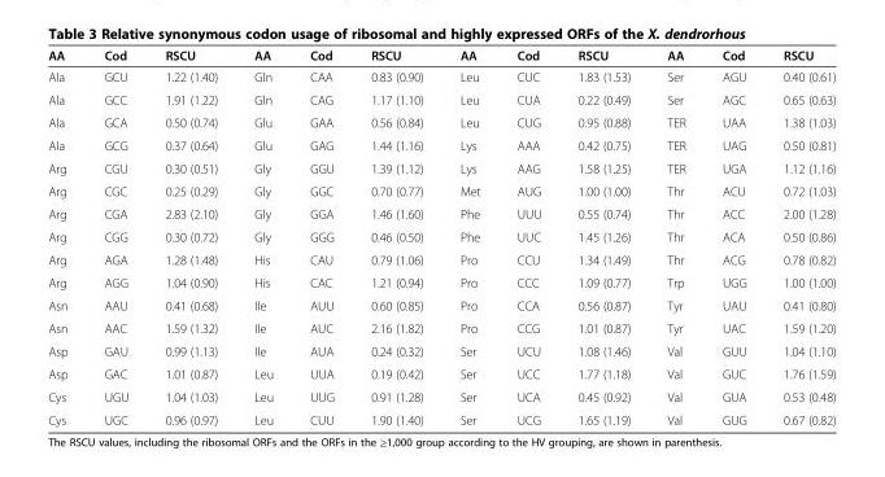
<table><thead><tr><td>AA</td><td>Cod</td><td>RSCU</td><td>AA</td><td>Cod</td><td>RSCU</td><td>AA</td><td>Cod</td><td>RSCU</td><td>AA</td><td>Cod</td><td>RSCU</td></tr></thead><tbody><tr><td>Ala</td><td>GCU</td><td>1.22 (1.40)</td><td>Gln</td><td>CAA</td><td>0.83 (0.90)</td><td>Leu</td><td>CUC</td><td>1.83 (1.53)</td><td>Ser</td><td>AGU</td><td>0.40 (0.61)</td></tr><tr><td>Ala</td><td>GCC</td><td>1.91 (1.22)</td><td>Gln</td><td>CAG</td><td>1.17 (1.10)</td><td>Leu</td><td>CUA</td><td>0.22 (0.49)</td><td>Ser</td><td>AGC</td><td>0.65 (0.63)</td></tr><tr><td>Ala</td><td>GCA</td><td>0.50 (0.74)</td><td>Glu</td><td>GAA</td><td>0.56 (0.84)</td><td>Leu</td><td>CUG</td><td>0.95 (0.88)</td><td>TER</td><td>UAA</td><td>1.38 (1.03)</td></tr><tr><td>Ala</td><td>GCG</td><td>0.37 (0.64)</td><td>Glu</td><td>GAG</td><td>1.44 (1.16)</td><td>Lys</td><td>AAA</td><td>0.42 (0.75)</td><td>TER</td><td>UAG</td><td>0.50 (0.81)</td></tr><tr><td>Arg</td><td>CGU</td><td>0.30 (0.51)</td><td>Gly</td><td>GGU</td><td>1.39 (1.12)</td><td>Lys</td><td>AAG</td><td>1.58 (1.25)</td><td>TER</td><td>UGA</td><td>1.12 (1.16)</td></tr><tr><td>Arg</td><td>CGC</td><td>0.25 (0.29)</td><td>Gly</td><td>GGC</td><td>0.70 (0.77)</td><td>Met</td><td>AUG</td><td>1.00 (1.00)</td><td>Thr</td><td>ACU</td><td>0.72 (1.03)</td></tr><tr><td>Arg</td><td>CGA</td><td>2.83 (2.10)</td><td>Gly</td><td>GGA</td><td>1.46 (1.60)</td><td>Phe</td><td>UUU</td><td>0.55 (0.74)</td><td>Thr</td><td>ACC</td><td>2.00 (1.28)</td></tr><tr><td>Arg</td><td>CGG</td><td>0.30 (0.72)</td><td>Gly</td><td>GGG</td><td>0.46 (0.50)</td><td>Phe</td><td>UUC</td><td>1.45 (1.26)</td><td>Thr</td><td>ACA</td><td>0.50 (0.86)</td></tr><tr><td>Arg</td><td>AGA</td><td>1.28 (1.48)</td><td>His</td><td>CAU</td><td>0.79 (1.06)</td><td>Pro</td><td>CCU</td><td>1.34 (1.49)</td><td>Thr</td><td>ACG</td><td>0.78 (0.82)</td></tr><tr><td>Arg</td><td>AGG</td><td>1.04 (0.90)</td><td>His</td><td>CAC</td><td>1.21 (0.94)</td><td>Pro</td><td>CCC</td><td>1.09 (0.77)</td><td>Trp</td><td>UGG</td><td>1.00 (1.00)</td></tr><tr><td>Asn</td><td>AAU</td><td>0.41 (0.68)</td><td>Ile</td><td>AUU</td><td>0.60 (0.85)</td><td>Pro</td><td>CCA</td><td>0.56 (0.87)</td><td>Tyr</td><td>UAU</td><td>0.41 (0.80)</td></tr><tr><td>Asn</td><td>AAC</td><td>1.59 (1.32)</td><td>Ile</td><td>AUC</td><td>2.16 (1.82)</td><td>Pro</td><td>CCG</td><td>1.01 (0.87)</td><td>Tyr</td><td>UAC</td><td>1.59 (1.20)</td></tr><tr><td>Asp</td><td>GAU</td><td>0.99 (1.13)</td><td>Ile</td><td>AUA</td><td>0.24 (0.32)</td><td>Ser</td><td>UCU</td><td>1.08 (1.46)</td><td>Val</td><td>GUU</td><td>1.04 (1.10)</td></tr><tr><td>Asp</td><td>GAC</td><td>1.01 (0.87)</td><td>Leu</td><td>UUA</td><td>0.19 (0.42)</td><td>Ser</td><td>UCC</td><td>1.77 (1.18)</td><td>Val</td><td>GUC</td><td>1.76 (1.59)</td></tr><tr><td>Cys</td><td>UGU</td><td>1.04 (1.03)</td><td>Leu</td><td>UUG</td><td>0.91 (1.28)</td><td>Ser</td><td>UCA</td><td>0.45 (0.92)</td><td>Val</td><td>GUA</td><td>0.53 (0.48)</td></tr><tr><td>Cys</td><td>UGC</td><td>0.96 (0.97)</td><td>Leu</td><td>CUU</td><td>1.90 (1.40)</td><td>Ser</td><td>UCG</td><td>1.65 (1.19)</td><td>Val</td><td>GUG</td><td>0.67 (0.82)</td></tr></tbody></table>